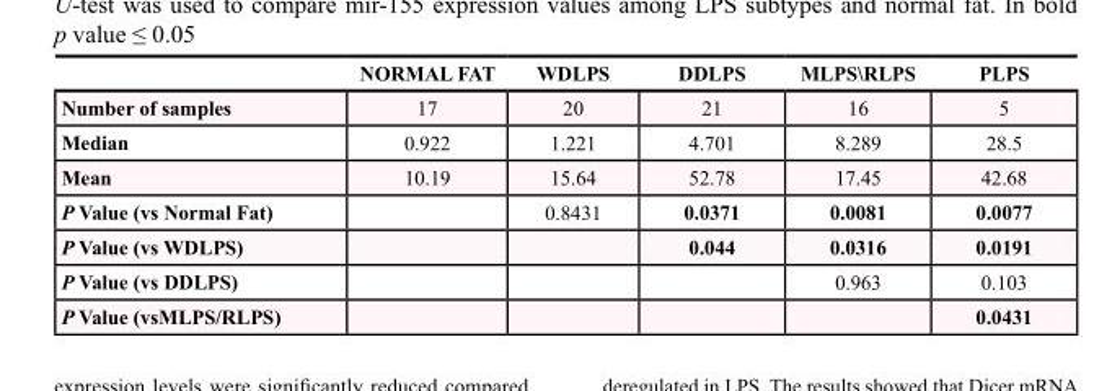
<table><thead><tr><td></td><td>NORMAL FAT</td><td>WDLPS</td><td>DDLPS</td><td>MLPS\RLPS</td><td>PLPS</td></tr></thead><tbody><tr><td>Number of samples</td><td>17</td><td>20</td><td>21</td><td>16</td><td>5</td></tr><tr><td>Median</td><td>0.922</td><td>1.221</td><td>4.701</td><td>8.289</td><td>28.5</td></tr><tr><td>Mean</td><td>10.19</td><td>15.64</td><td>52.78</td><td>17.45</td><td>42.68</td></tr><tr><td>P Value (vs Normal Fat)</td><td></td><td>0.8431</td><td>0.0371</td><td>0.0081</td><td>0.0077</td></tr><tr><td>P Value (vs WDLPS)</td><td></td><td></td><td>0.044</td><td>0.0316</td><td>0.0191</td></tr><tr><td>P Value (vs DDLPS)</td><td></td><td></td><td></td><td>0.963</td><td>0.103</td></tr><tr><td>P Value (vsMLPS/RLPS)</td><td></td><td></td><td></td><td></td><td>0.0431</td></tr></tbody></table>